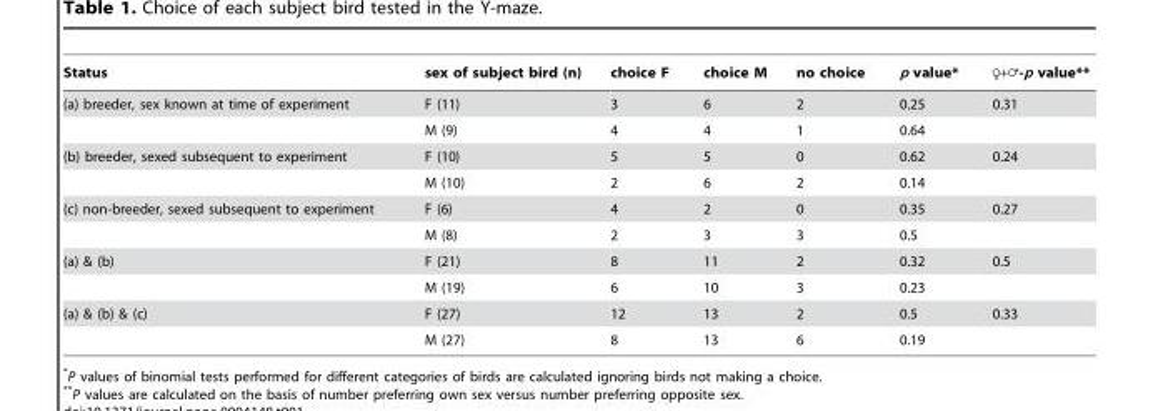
<table><thead><tr><td>Status</td><td>sex of subject bird (n)</td><td>choice F</td><td>choice M</td><td>no choice</td><td>p value*</td><td>R+=-p value**</td></tr></thead><tbody><tr><td rowspan="2">(a) breeder, sex known at time of experiment</td><td>F (11)</td><td>3</td><td>6</td><td>2</td><td>0.25</td><td>0.31</td></tr><tr><td>M (9)</td><td>4</td><td>4</td><td>1</td><td>0.64</td><td></td></tr><tr><td rowspan="2">(b) breeder, sexed subsequent to experiment</td><td>F (10)</td><td>5</td><td>5</td><td>0</td><td>0.62</td><td>0.24</td></tr><tr><td>M (10)</td><td>2</td><td>6</td><td>2</td><td>0.14</td><td></td></tr><tr><td rowspan="2">(c) non-breeder, sexed subsequent to experiment</td><td>F (6)</td><td>4</td><td>2</td><td>0</td><td>0.35</td><td>0.27</td></tr><tr><td>M (8)</td><td>2</td><td>3</td><td>3</td><td>0.5</td><td></td></tr><tr><td rowspan="2">(a) &amp; (b)</td><td>F (21)</td><td>8</td><td>11</td><td>2</td><td>0.32</td><td>0.5</td></tr><tr><td>M (19)</td><td>6</td><td>10</td><td>3</td><td>0.23</td><td></td></tr><tr><td rowspan="2">(a) &amp; (b) &amp; (c)</td><td>F (27)</td><td>12</td><td>13</td><td>2</td><td>0.5</td><td>0.33</td></tr><tr><td>M (27)</td><td>8</td><td>13</td><td>6</td><td>0.19</td><td></td></tr></tbody></table>